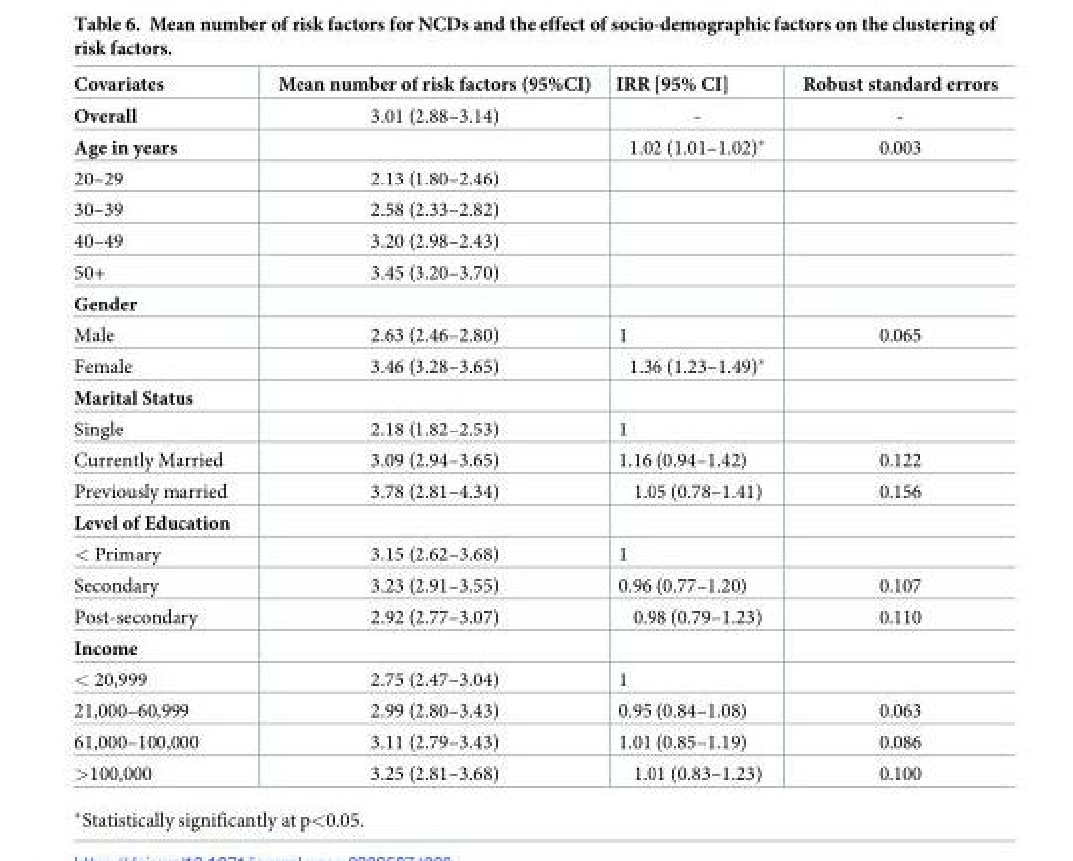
<table><thead><tr><td>Covariates</td><td>Mean number of risk factors (95%CI)</td><td>IRR [95% CI]</td><td>Robust standard errors</td></tr></thead><tbody><tr><td>Overall</td><td>3.01 (2.88–3.14)</td><td>-</td><td>-</td></tr><tr><td>Age in years</td><td></td><td>1.02 (1.01–1.02)*</td><td>0.003</td></tr><tr><td>20–29</td><td>2.13 (1.80–2.46)</td><td></td><td></td></tr><tr><td>30–39</td><td>2.58 (2.33–2.82)</td><td></td><td></td></tr><tr><td>40–49</td><td>3.20 (2.98–2.43)</td><td></td><td></td></tr><tr><td>50+</td><td>3.45 (3.20–3.70)</td><td></td><td></td></tr><tr><td colspan="4">Gender</td></tr><tr><td>Male</td><td>2.63 (2.46–2.80)</td><td>1</td><td>0.065</td></tr><tr><td>Female</td><td>3.46 (3.28–3.65)</td><td>1.36 (1.23–1.49)*</td><td></td></tr><tr><td colspan="4">Marital Status</td></tr><tr><td>Single</td><td>2.18 (1.82–2.53)</td><td>1</td><td></td></tr><tr><td>Currently Married</td><td>3.09 (2.94–3.65)</td><td>1.16 (0.94–1.42)</td><td>0.122</td></tr><tr><td>Previously married</td><td>3.78 (2.81–4.34)</td><td>1.05 (0.78–1.41)</td><td>0.156</td></tr><tr><td colspan="4">Level of Education</td></tr><tr><td>&lt; Primary</td><td>3.15 (2.62–3.68)</td><td>1</td><td></td></tr><tr><td>Secondary</td><td>3.23 (2.91–3.55)</td><td>0.96 (0.77–1.20)</td><td>0.107</td></tr><tr><td>Post-secondary</td><td>2.92 (2.77–3.07)</td><td>0.98 (0.79–1.23)</td><td>0.110</td></tr><tr><td colspan="4">Income</td></tr><tr><td>&lt; 20,999</td><td>2.75 (2.47–3.04)</td><td>1</td><td></td></tr><tr><td>21,000–60,999</td><td>2.99 (2.80–3.43)</td><td>0.95 (0.84–1.08)</td><td>0.063</td></tr><tr><td>61,000–100,000</td><td>3.11 (2.79–3.43)</td><td>1.01 (0.85–1.19)</td><td>0.086</td></tr><tr><td>&gt;100,000</td><td>3.25 (2.81–3.68)</td><td>1.01 (0.83–1.23)</td><td>0.100</td></tr></tbody></table>